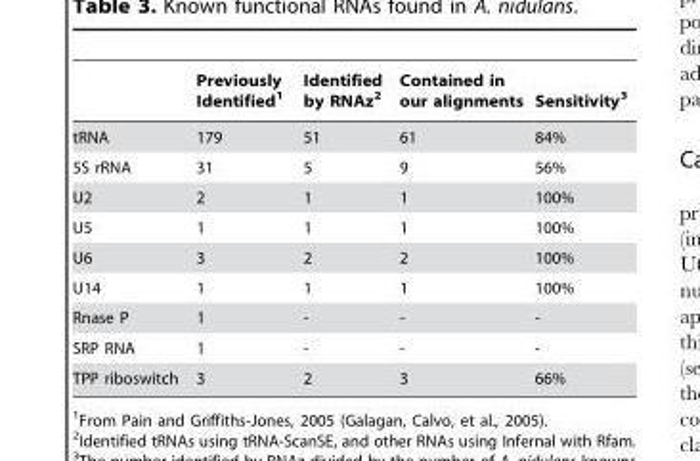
<table><thead><tr><td></td><td>Previously Identified<sup>1</sup></td><td>Identified by RNAz<sup>2</sup></td><td>Contained in our alignments</td><td>Sensitivity<sup>3</sup></td></tr></thead><tbody><tr><td>tRNA</td><td>179</td><td>51</td><td>61</td><td>84%</td></tr><tr><td>5S rRNA</td><td>31</td><td>5</td><td>9</td><td>56%</td></tr><tr><td>U2</td><td>2</td><td>1</td><td>1</td><td>100%</td></tr><tr><td>U5</td><td>1</td><td>1</td><td>1</td><td>100%</td></tr><tr><td>U6</td><td>3</td><td>2</td><td>2</td><td>100%</td></tr><tr><td>U14</td><td>1</td><td>1</td><td>1</td><td>100%</td></tr><tr><td>Rnase P</td><td>1</td><td>-</td><td>-</td><td>-</td></tr><tr><td>SRP RNA</td><td>1</td><td>-</td><td>-</td><td>-</td></tr><tr><td>TPP riboswitch</td><td>3</td><td>2</td><td>3</td><td>66%</td></tr></tbody></table>